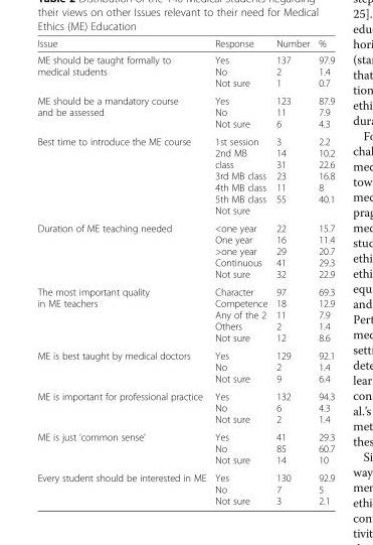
<table><thead><tr><td>Issue</td><td>Response</td><td>Number</td><td>%</td></tr></thead><tbody><tr><td>ME should be taught formally to medical students</td><td>Yes No Not sure</td><td>137 2 1</td><td>97.9 1.4 0.7</td></tr><tr><td>ME should be a mandatory course and be assessed</td><td>Yes No Not sure</td><td>123 11 6</td><td>87.9 7.9 4.3</td></tr><tr><td>Best time to introduce the ME course</td><td>1st session 2nd MB class 3rd MB class 4th MB class 5th MB class Not sure</td><td>3 14 31 23 11 55</td><td>2.2 10.2 22.6 16.8 8 40.1</td></tr><tr><td>Duration of ME teaching needed</td><td>&lt;one year One year &gt;one year Continuous Not sure</td><td>22 16 29 41 32</td><td>15.7 11.4 20.7 29.3 22.9</td></tr><tr><td>The most important quality in ME teachers</td><td>Character Competence Any of the 2 Others Not sure</td><td>97 18 11 2 12</td><td>69.3 12.9 7.9 1.4 8.6</td></tr><tr><td>ME is best taught by medical doctors</td><td>Yes No Not sure</td><td>129 2 9</td><td>92.1 1.4 6.4</td></tr><tr><td>ME is important for professional practice</td><td>Yes No Not sure</td><td>132 6 2</td><td>94.3 4.3 1.4</td></tr><tr><td>ME is just ‘common sense’</td><td>Yes No Not sure</td><td>41 85 14</td><td>29.3 60.7 10</td></tr><tr><td>Every student should be interested in ME</td><td>Yes No Not sure</td><td>130 7 3</td><td>92.9 5 2.1</td></tr></tbody></table>